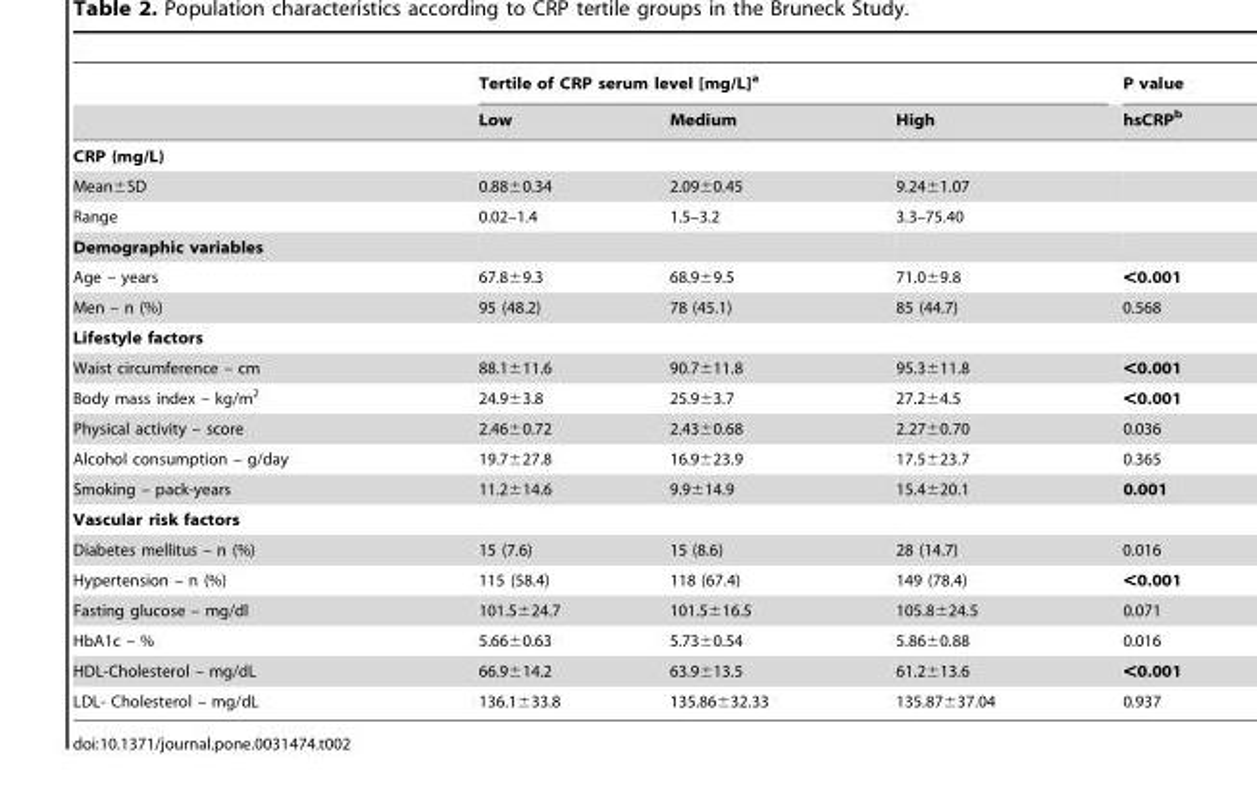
<table><thead><tr><td rowspan="2"></td><td colspan="3">Tertile of CRP serum level [mg/L]<sup>a</sup></td><td rowspan="2">P value hsCRP<sup>b</sup></td></tr><tr><td>Low</td><td>Medium</td><td>High</td></tr></thead><tbody><tr><td colspan="5">CRP (mg/L)</td></tr><tr><td>Mean±SD</td><td>0.88±0.34</td><td>2.09±0.45</td><td>9.24±1.07</td><td></td></tr><tr><td>Range</td><td>0.02–1.4</td><td>1.5–3.2</td><td>3.3–75.40</td><td></td></tr><tr><td colspan="5">Demographic variables</td></tr><tr><td>Age – years</td><td>67.8±9.3</td><td>68.9±9.5</td><td>71.0±9.8</td><td>&lt;0.001</td></tr><tr><td>Men – n (%)</td><td>95 (48.2)</td><td>78 (45.1)</td><td>85 (44.7)</td><td>0.568</td></tr><tr><td colspan="5">Lifestyle factors</td></tr><tr><td>Waist circumference – cm</td><td>88.1±11.6</td><td>90.7±11.8</td><td>95.3±11.8</td><td>&lt;0.001</td></tr><tr><td>Body mass index – kg/m<sup>2</sup></td><td>24.9±3.8</td><td>25.9±3.7</td><td>27.2±4.5</td><td>&lt;0.001</td></tr><tr><td>Physical activity – score</td><td>2.46±0.72</td><td>2.43±0.68</td><td>2.27±0.70</td><td>0.036</td></tr><tr><td>Alcohol consumption – g/day</td><td>19.7±27.8</td><td>16.9±23.9</td><td>17.5±23.7</td><td>0.365</td></tr><tr><td>Smoking – pack-years</td><td>11.2±14.6</td><td>9.9±14.9</td><td>15.4±20.1</td><td>0.001</td></tr><tr><td colspan="5">Vascular risk factors</td></tr><tr><td>Diabetes mellitus – n (%)</td><td>15 (7.6)</td><td>15 (8.6)</td><td>28 (14.7)</td><td>0.016</td></tr><tr><td>Hypertension – n (%)</td><td>115 (58.4)</td><td>118 (67.4)</td><td>149 (78.4)</td><td>&lt;0.001</td></tr><tr><td>Fasting glucose – mg/dl</td><td>101.5±24.7</td><td>101.5±16.5</td><td>105.8±24.5</td><td>0.071</td></tr><tr><td>HbA1c – %</td><td>5.66±0.63</td><td>5.73±0.54</td><td>5.86±0.88</td><td>0.016</td></tr><tr><td>HDL-Cholesterol – mg/dL</td><td>66.9±14.2</td><td>63.9±13.5</td><td>61.2±13.6</td><td>&lt;0.001</td></tr><tr><td>LDL- Cholesterol – mg/dL</td><td>136.1±33.8</td><td>135.86±32.33</td><td>135.87±37.04</td><td>0.937</td></tr></tbody></table>